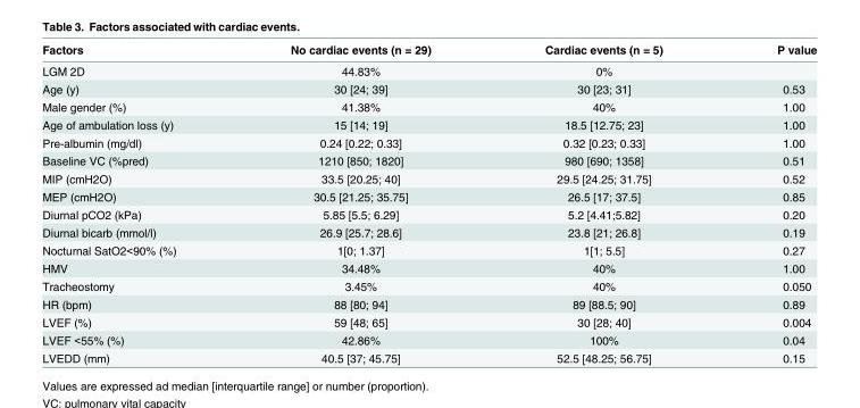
<table><thead><tr><td>Factors</td><td>No cardiac events (n = 29)</td><td>Cardiac events (n = 5)</td><td>P value</td></tr></thead><tbody><tr><td>LGM 2D</td><td>44.83%</td><td>0%</td><td></td></tr><tr><td>Age (y)</td><td>30 [24; 39]</td><td>30 [23; 31]</td><td>0.53</td></tr><tr><td>Male gender (%)</td><td>41.38%</td><td>40%</td><td>1.00</td></tr><tr><td>Age of ambulation loss (y)</td><td>15 [14; 19]</td><td>18.5 [12.75; 23]</td><td>1.00</td></tr><tr><td>Pre-albumin (mg/dl)</td><td>0.24 [0.22; 0.33]</td><td>0.32 [0.23; 0.33]</td><td>1.00</td></tr><tr><td>Baseline VC (%pred)</td><td>1210 [850; 1820]</td><td>980 [690; 1358]</td><td>0.51</td></tr><tr><td>MIP (cmH2O)</td><td>33.5 [20.25; 40]</td><td>29.5 [24.25; 31.75]</td><td>0.52</td></tr><tr><td>MEP (cmH2O)</td><td>30.5 [21.25; 35.75]</td><td>26.5 [17; 37.5]</td><td>0.85</td></tr><tr><td>Diurnal pCO2 (kPa)</td><td>5.85 [5.5; 6.29]</td><td>5.2 [4.41;5.82]</td><td>0.20</td></tr><tr><td>Diurnal bicarb (mmol/l)</td><td>26.9 [25.7; 28.6]</td><td>23.8 [21; 26.8]</td><td>0.19</td></tr><tr><td>Nocturnal SatO2&lt;90% (%)</td><td>1[0; 1.37]</td><td>1[1; 5.5]</td><td>0.27</td></tr><tr><td>HMV</td><td>34.48%</td><td>40%</td><td>1.00</td></tr><tr><td>Tracheostomy</td><td>3.45%</td><td>40%</td><td>0.050</td></tr><tr><td>HR (bpm)</td><td>88 [80; 94]</td><td>89 [88.5; 90]</td><td>0.89</td></tr><tr><td>LVEF (%)</td><td>59 [48; 65]</td><td>30 [28; 40]</td><td>0.004</td></tr><tr><td>LVEF &lt;55% (%)</td><td>42.86%</td><td>100%</td><td>0.04</td></tr><tr><td>LVEDD (mm)</td><td>40.5 [37; 45.75]</td><td>52.5 [48.25; 56.75]</td><td>0.15</td></tr></tbody></table>